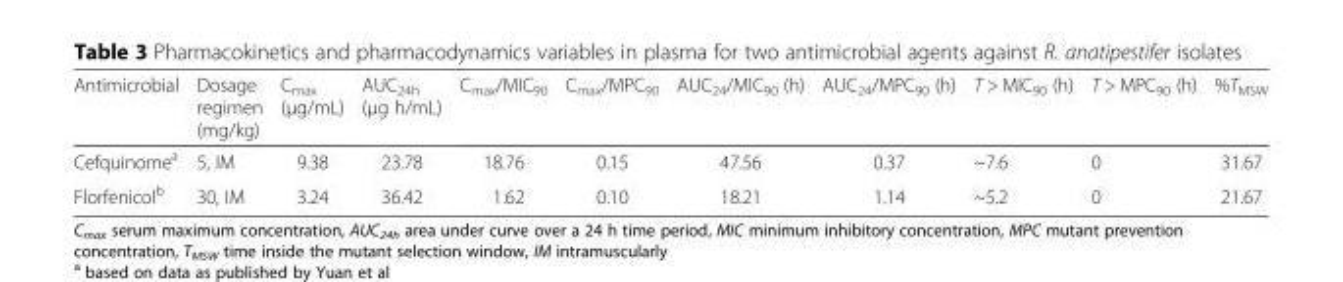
<table><thead><tr><td>Antimicrobial</td><td>Dosage regimen (mg/kg)</td><td>C<sub>max</sub> (μg/mL)</td><td>AUC<sub>24h</sub> (μg h/mL)</td><td>C<sub>max</sub>/MIC<sub>90</sub></td><td>C<sub>max</sub>/MPC<sub>90</sub></td><td>AUC<sub>24</sub>/MIC<sub>90</sub> (h)</td><td>AUC<sub>24</sub>/MPC<sub>90</sub> (h)</td><td>T &gt; MIC<sub>90</sub> (h)</td><td>T &gt; MPC<sub>90</sub> (h)</td><td>%T<sub>MSW</sub></td></tr></thead><tbody><tr><td>Cefquinome<sup>a</sup></td><td>5, IM</td><td>9.38</td><td>23.78</td><td>18.76</td><td>0.15</td><td>47.56</td><td>0.37</td><td>~7.6</td><td>0</td><td>31.67</td></tr><tr><td>Florfenicol<sup>b</sup></td><td>30, IM</td><td>3.24</td><td>36.42</td><td>1.62</td><td>0.10</td><td>18.21</td><td>1.14</td><td>~5.2</td><td>0</td><td>21.67</td></tr></tbody></table>